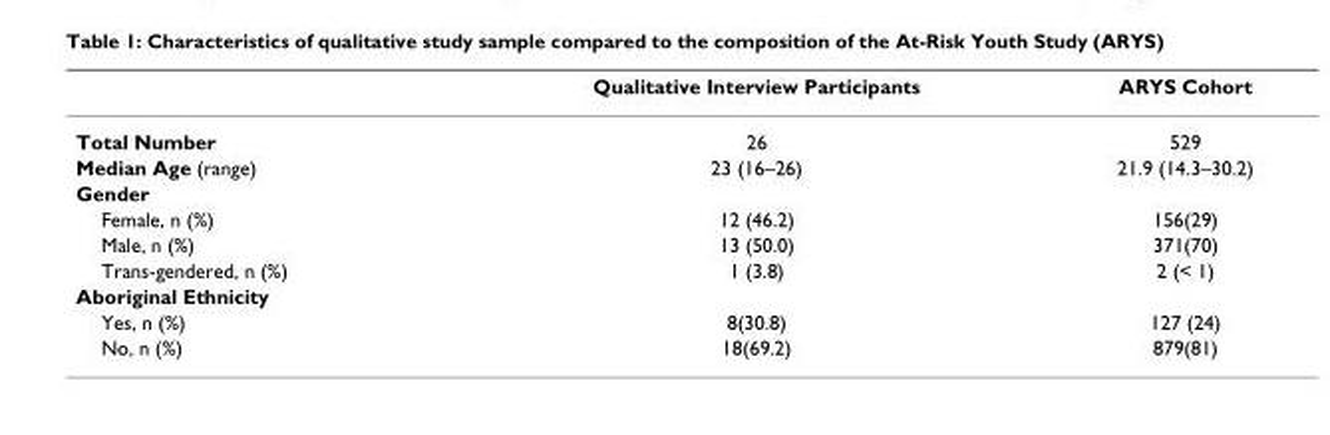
<table><thead><tr><td></td><td>Qualitative Interview Participants</td><td>ARYS Cohort</td></tr></thead><tbody><tr><td>Total Number</td><td>26</td><td>529</td></tr><tr><td>Median Age (range)</td><td>23 (16–26)</td><td>21.9 (14.3–30.2)</td></tr><tr><td colspan="3">Gender</td></tr><tr><td>Female, n (%)</td><td>12 (46.2)</td><td>156(29)</td></tr><tr><td>Male, n (%)</td><td>13 (50.0)</td><td>371(70)</td></tr><tr><td>Trans-gendered, n (%)</td><td>1 (3.8)</td><td>2 (&lt; 1)</td></tr><tr><td colspan="3">Aboriginal Ethnicity</td></tr><tr><td>Yes, n (%)</td><td>8(30.8)</td><td>127 (24)</td></tr><tr><td>No, n (%)</td><td>18(69.2)</td><td>879(81)</td></tr></tbody></table>